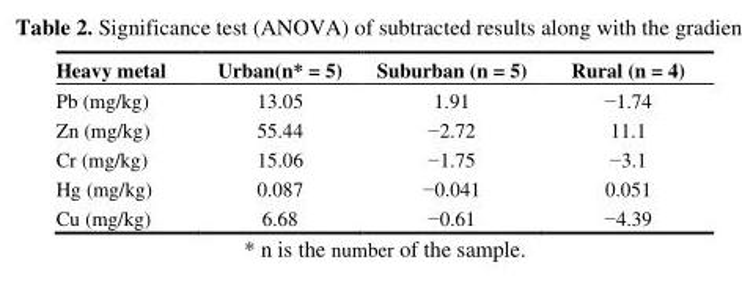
<table><thead><tr><td>Heavy metal</td><td>Urban(n* = 5)</td><td>Suburban (n = 5)</td><td>Rural (n = 4)</td></tr></thead><tbody><tr><td>Pb (mg/kg)</td><td>13.05</td><td>1.91</td><td>−1.74</td></tr><tr><td>Zn (mg/kg)</td><td>55.44</td><td>−2.72</td><td>11.1</td></tr><tr><td>Cr (mg/kg)</td><td>15.06</td><td>−1.75</td><td>−3.1</td></tr><tr><td>Hg (mg/kg)</td><td>0.087</td><td>−0.041</td><td>0.051</td></tr><tr><td>Cu (mg/kg)</td><td>6.68</td><td>−0.61</td><td>−4.39</td></tr></tbody></table>